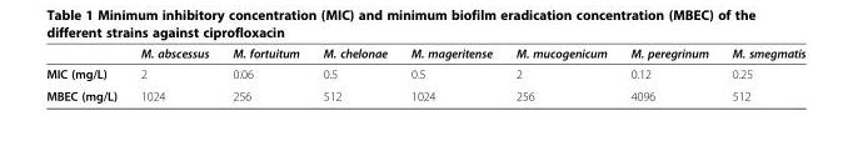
<table><thead><tr><td></td><td>M. abscessus</td><td>M. fortuitum</td><td>M. chelonae</td><td>M. mageritense</td><td>M. mucogenicum</td><td>M. peregrinum</td><td>M. smegmatis</td></tr></thead><tbody><tr><td>MIC (mg/L)</td><td>2</td><td>0.06</td><td>0.5</td><td>0.5</td><td>2</td><td>0.12</td><td>0.25</td></tr><tr><td>MBEC (mg/L)</td><td>1024</td><td>256</td><td>512</td><td>1024</td><td>256</td><td>4096</td><td>512</td></tr></tbody></table>